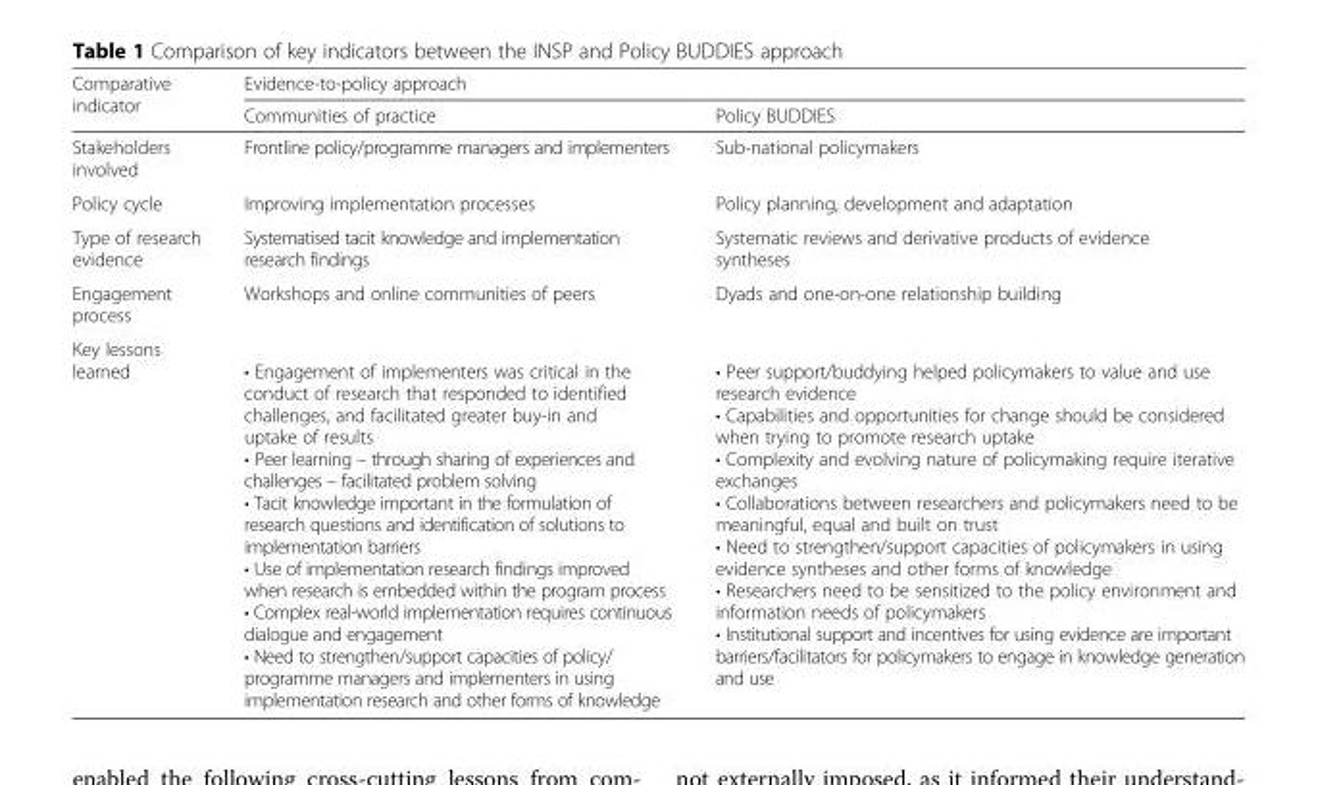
<table><thead><tr><td rowspan="2">Comparative indicator</td><td colspan="2">Evidence-to-policy approach</td></tr><tr><td>Communities of practice</td><td>Policy BUDDIES</td></tr></thead><tbody><tr><td>Stakeholders involved</td><td>Frontline policy/programme managers and implementers</td><td>Sub-national policymakers</td></tr><tr><td>Policy cycle</td><td>Improving implementation processes</td><td>Policy planning, development and adaptation</td></tr><tr><td>Type of research evidence</td><td>Systematised tacit knowledge and implementation research findings</td><td>Systematic reviews and derivative products of evidence syntheses</td></tr><tr><td>Engagement process</td><td>Workshops and online communities of peers</td><td>Dyads and one-on-one relationship building</td></tr><tr><td>Key lessons learned</td><td>• Engagement of implementers was critical in the conduct of research that responded to identified challenges, and facilitated greater buy-in and uptake of results • Peer learning – through sharing of experiences and challenges – facilitated problem solving • Tacit knowledge important in the formulation of research questions and identification of solutions to implementation barriers • Use of implementation research findings improved when research is embedded within the program process • Complex real-world implementation requires continuous dialogue and engagement • Need to strengthen/support capacities of policy/ programme managers and implementers in using implementation research and other forms of knowledge</td><td>• Peer support/buddying helped policymakers to value and use research evidence • Capabilities and opportunities for change should be considered when trying to promote research uptake • Complexity and evolving nature of policymaking require iterative exchanges • Collaborations between researchers and policymakers need to be meaningful, equal and built on trust • Need to strengthen/support capacities of policymakers in using evidence syntheses and other forms of knowledge • Researchers need to be sensitized to the policy environment and information needs of policymakers • Institutional support and incentives for using evidence are important barriers/facilitators for policymakers to engage in knowledge generation and use</td></tr></tbody></table>